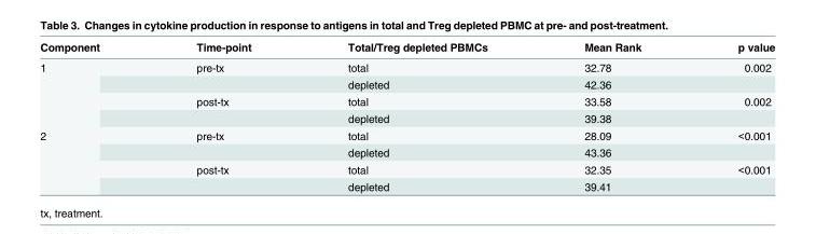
<table><thead><tr><td>Component</td><td>Time-point</td><td>Total/Treg depleted PBMCs</td><td>Mean Rank</td><td>p value</td></tr></thead><tbody><tr><td rowspan="4">1</td><td>pre-tx</td><td>total</td><td>32.78</td><td>0.002</td></tr><tr><td></td><td>depleted</td><td>42.36</td><td></td></tr><tr><td>post-tx</td><td>total</td><td>33.58</td><td>0.002</td></tr><tr><td></td><td>depleted</td><td>39.38</td><td></td></tr><tr><td rowspan="4">2</td><td>pre-tx</td><td>total</td><td>28.09</td><td>&lt;0.001</td></tr><tr><td></td><td>depleted</td><td>43.36</td><td></td></tr><tr><td>post-tx</td><td>total</td><td>32.35</td><td>&lt;0.001</td></tr><tr><td></td><td>depleted</td><td>39.41</td><td></td></tr></tbody></table>